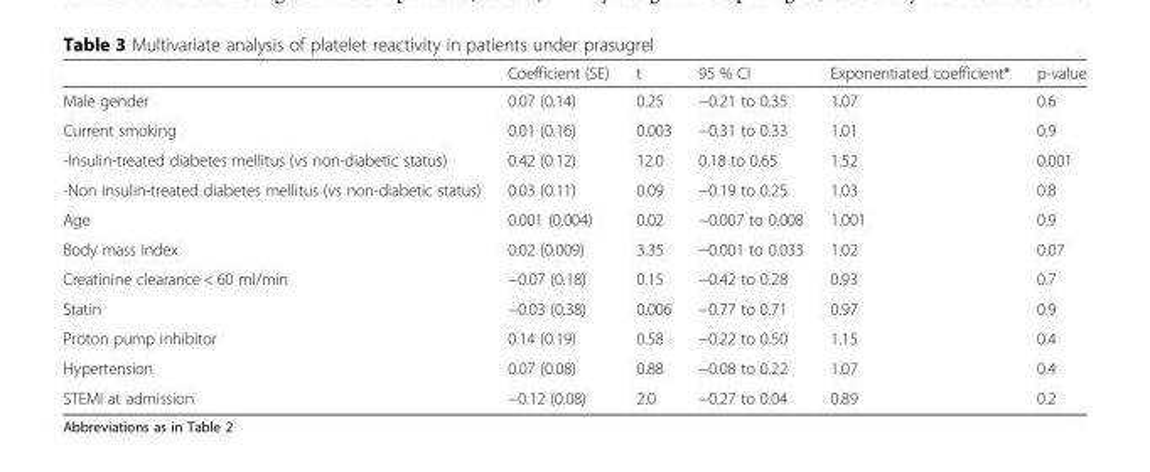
<table><thead><tr><td></td><td>Coefficient (SE)</td><td>t</td><td>95 % CI</td><td>Exponentiated coefficient*</td><td>p-value</td></tr></thead><tbody><tr><td>Male gender</td><td>0.07 (0.14)</td><td>0.25</td><td>−0.21 to 0.35</td><td>1.07</td><td>0.6</td></tr><tr><td>Current smoking</td><td>0.01 (0.16)</td><td>0.003</td><td>−0.31 to 0.33</td><td>1.01</td><td>0.9</td></tr><tr><td>-Insulin-treated diabetes mellitus (vs non-diabetic status)</td><td>0.42 (0.12)</td><td>12.0</td><td>0.18 to 0.65</td><td>1.52</td><td>0.001</td></tr><tr><td>-Non insulin-treated diabetes mellitus (vs non-diabetic status)</td><td>0.03 (0.11)</td><td>0.09</td><td>−0.19 to 0.25</td><td>1.03</td><td>0.8</td></tr><tr><td>Age</td><td>0.001 (0.004)</td><td>0.02</td><td>−0.007 to 0.008</td><td>1.001</td><td>0.9</td></tr><tr><td>Body mass index</td><td>0.02 (0.009)</td><td>3.35</td><td>−0.001 to 0.033</td><td>1.02</td><td>0.07</td></tr><tr><td>Creatinine clearance &lt; 60 ml/min</td><td>−0.07 (0.18)</td><td>0.15</td><td>−0.42 to 0.28</td><td>0.93</td><td>0.7</td></tr><tr><td>Statin</td><td>−0.03 (0.38)</td><td>0.006</td><td>−0.77 to 0.71</td><td>0.97</td><td>0.9</td></tr><tr><td>Proton pump inhibitor</td><td>0.14 (0.19)</td><td>0.58</td><td>−0.22 to 0.50</td><td>1.15</td><td>0.4</td></tr><tr><td>Hypertension</td><td>0.07 (0.08)</td><td>0.88</td><td>−0.08 to 0.22</td><td>1.07</td><td>0.4</td></tr><tr><td>STEMI at admission</td><td>−0.12 (0.08)</td><td>2.0</td><td>−0.27 to 0.04</td><td>0.89</td><td>0.2</td></tr></tbody></table>